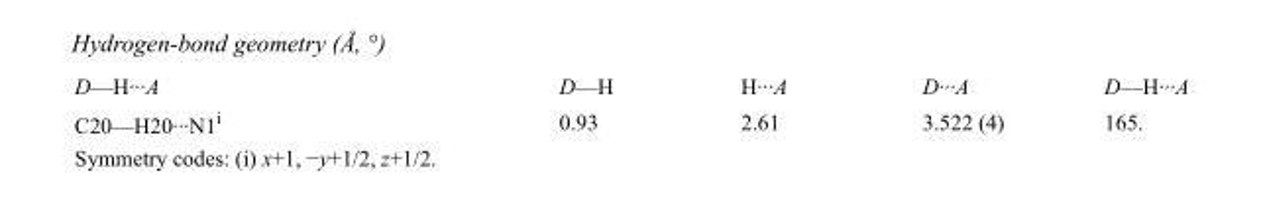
<table><tbody><tr><td>D—H···A</td><td>D—H</td><td>H···A</td><td>D···A</td><td>D—H···A</td></tr><tr><td>C20—H20···N1<sup>i</sup></td><td>0.93</td><td>2.61</td><td>3.522 (4)</td><td>165.</td></tr></tbody></table>